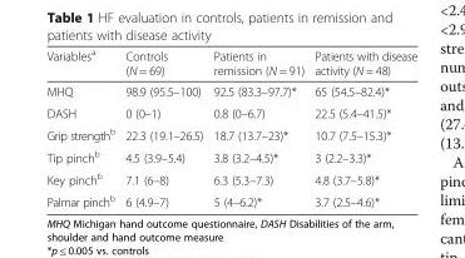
<table><thead><tr><td>Variables<sup>a</sup></td><td>Controls (N = 69)</td><td>Patients in remission (N = 91)</td><td>Patients with disease activity (N = 48)</td></tr></thead><tbody><tr><td>MHQ</td><td>98.9 (95.5–100)</td><td>92.5 (83.3–97.7)*</td><td>65 (54.5–82.4)*</td></tr><tr><td>DASH</td><td>0 (0–1)</td><td>0.8 (0–6.7)</td><td>22.5 (5.4–41.5)*</td></tr><tr><td>Grip strength<sup>b</sup></td><td>22.3 (19.1–26.5)</td><td>18.7 (13.7–23)*</td><td>10.7 (7.5–15.3)*</td></tr><tr><td>Tip pinch<sup>b</sup></td><td>4.5 (3.9–5.4)</td><td>3.8 (3.2–4.5)*</td><td>3 (2.2–3.3)*</td></tr><tr><td>Key pinch<sup>b</sup></td><td>7.1 (6–8)</td><td>6.3 (5.3–7.3)</td><td>4.8 (3.7–5.8)*</td></tr><tr><td>Palmar pinch<sup>b</sup></td><td>6 (4.9–7)</td><td>5 (4–6.2)*</td><td>3.7 (2.5–4.6)*</td></tr></tbody></table>